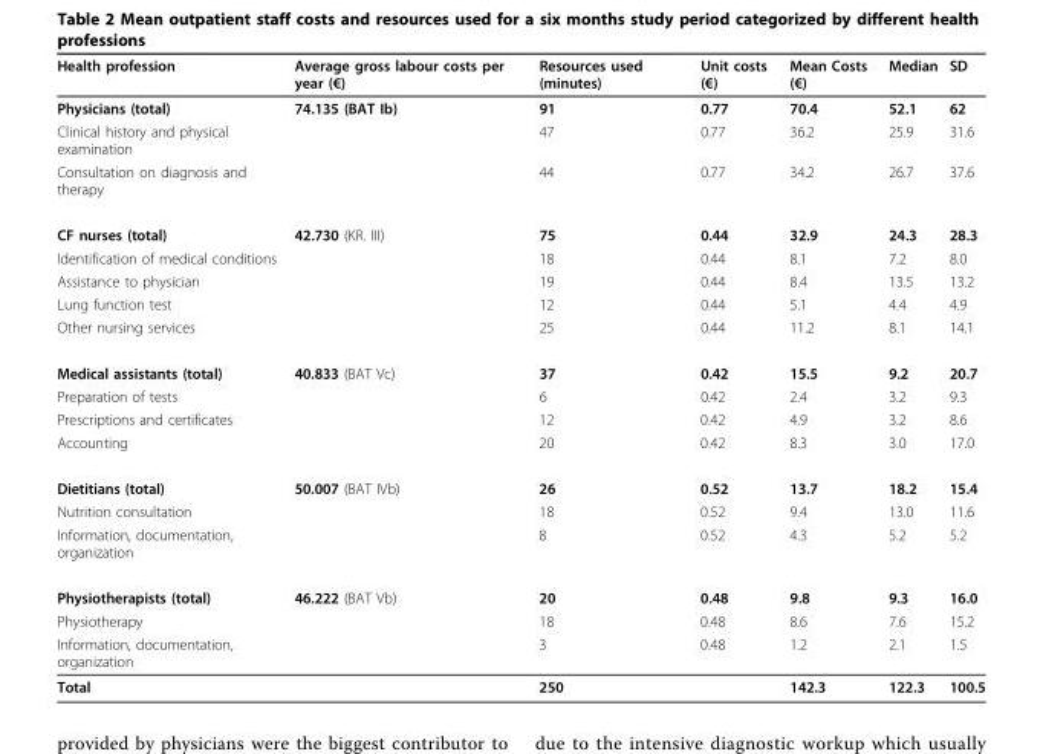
<table><thead><tr><td>Health profession</td><td>Average gross labour costs per year (€)</td><td>Resources used (minutes)</td><td>Unit costs (€)</td><td>Mean Costs (€)</td><td>Median</td><td>SD</td></tr></thead><tbody><tr><td>Physicians (total)</td><td>74.135 (BAT Ib)</td><td>91</td><td>0.77</td><td>70.4</td><td>52.1</td><td>62</td></tr><tr><td>Clinical history and physical examination</td><td></td><td>47</td><td>0.77</td><td>36.2</td><td>25.9</td><td>31.6</td></tr><tr><td>Consultation on diagnosis and therapy</td><td></td><td>44</td><td>0.77</td><td>34.2</td><td>26.7</td><td>37.6</td></tr><tr><td>CF nurses (total)</td><td>42.730 (KR. III)</td><td>75</td><td>0.44</td><td>32.9</td><td>24.3</td><td>28.3</td></tr><tr><td>Identification of medical conditions</td><td></td><td>18</td><td>0.44</td><td>8.1</td><td>7.2</td><td>8.0</td></tr><tr><td>Assistance to physician</td><td></td><td>19</td><td>0.44</td><td>8.4</td><td>13.5</td><td>13.2</td></tr><tr><td>Lung function test</td><td></td><td>12</td><td>0.44</td><td>5.1</td><td>4.4</td><td>4.9</td></tr><tr><td>Other nursing services</td><td></td><td>25</td><td>0.44</td><td>11.2</td><td>8.1</td><td>14.1</td></tr><tr><td>Medical assistants (total)</td><td>40.833 (BAT Vc)</td><td>37</td><td>0.42</td><td>15.5</td><td>9.2</td><td>20.7</td></tr><tr><td>Preparation of tests</td><td></td><td>6</td><td>0.42</td><td>2.4</td><td>3.2</td><td>9.3</td></tr><tr><td>Prescriptions and certificates</td><td></td><td>12</td><td>0.42</td><td>4.9</td><td>3.2</td><td>8.6</td></tr><tr><td>Accounting</td><td></td><td>20</td><td>0.42</td><td>8.3</td><td>3.0</td><td>17.0</td></tr><tr><td>Dietitians (total)</td><td>50.007 (BAT IVb)</td><td>26</td><td>0.52</td><td>13.7</td><td>18.2</td><td>15.4</td></tr><tr><td>Nutrition consultation</td><td></td><td>18</td><td>0.52</td><td>9.4</td><td>13.0</td><td>11.6</td></tr><tr><td>Information, documentation, organization</td><td></td><td>8</td><td>0.52</td><td>4.3</td><td>5.2</td><td>5.2</td></tr><tr><td>Physiotherapists (total)</td><td>46.222 (BAT Vb)</td><td>20</td><td>0.48</td><td>9.8</td><td>9.3</td><td>16.0</td></tr><tr><td>Physiotherapy</td><td></td><td>18</td><td>0.48</td><td>8.6</td><td>7.6</td><td>15.2</td></tr><tr><td>Information, documentation, organization</td><td></td><td>3</td><td>0.48</td><td>1.2</td><td>2.1</td><td>1.5</td></tr><tr><td>Total</td><td></td><td>250</td><td></td><td>142.3</td><td>122.3</td><td>100.5</td></tr></tbody></table>